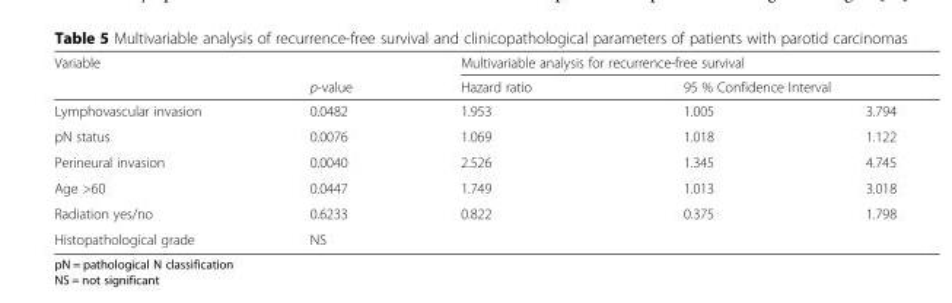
<table><thead><tr><td rowspan="3">Variable Lymphovascular invasion</td><td rowspan="3">p-value 0.0482</td><td colspan="3">Multivariable analysis for recurrence-free survival</td></tr><tr><td rowspan="2">Hazard ratio 1.953</td><td colspan="2">95 % Confidence Interval</td></tr><tr><td>1.005</td><td>3.794</td></tr></thead><tbody><tr><td>pN status</td><td>0.0076</td><td>1.069</td><td>1.018</td><td>1.122</td></tr><tr><td>Perineural invasion</td><td>0.0040</td><td>2.526</td><td>1.345</td><td>4.745</td></tr><tr><td>Age &gt;60</td><td>0.0447</td><td>1.749</td><td>1.013</td><td>3.018</td></tr><tr><td>Radiation yes/no</td><td>0.6233</td><td>0.822</td><td>0.375</td><td>1.798</td></tr><tr><td>Histopathological grade</td><td>NS</td><td></td><td></td><td></td></tr></tbody></table>